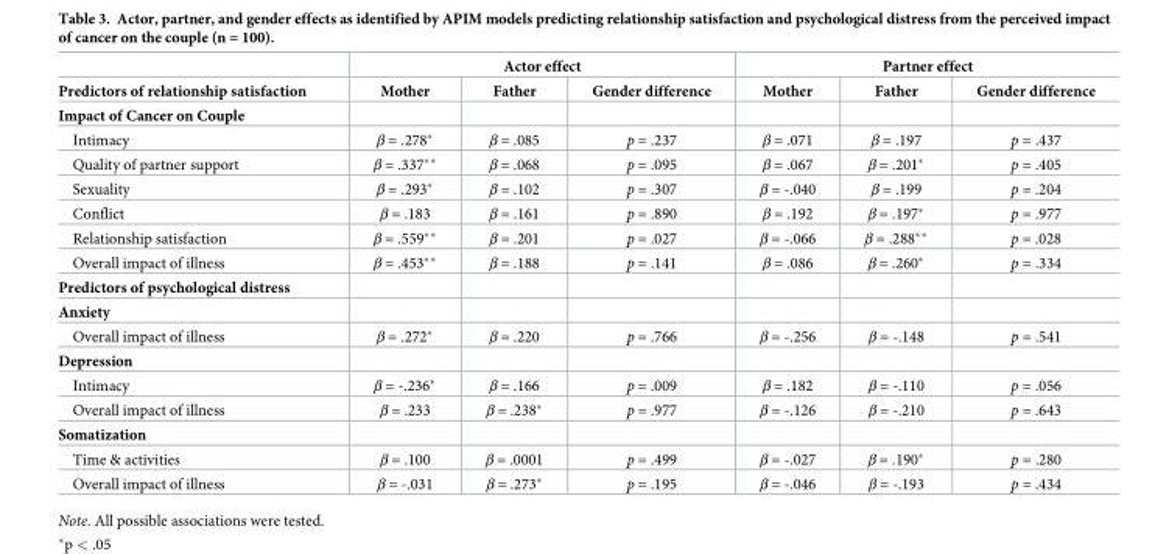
<table><thead><tr><td rowspan="2">Predictors of relationship satisfaction</td><td colspan="3">Actor effect</td><td colspan="3">Partner effect</td></tr><tr><td>Mother</td><td>Father</td><td>Gender difference</td><td>Mother</td><td>Father</td><td>Gender difference</td></tr></thead><tbody><tr><td colspan="7">Impact of Cancer on Couple</td></tr><tr><td>Intimacy</td><td>β = .278*</td><td>β = .085</td><td>p = .237</td><td>β = .071</td><td>β = .197</td><td>p = .437</td></tr><tr><td>Quality of partner support</td><td>β = .337**</td><td>β = .068</td><td>p = .095</td><td>β = .067</td><td>β = .201*</td><td>p = .405</td></tr><tr><td>Sexuality</td><td>β = .293*</td><td>β = .102</td><td>p = .307</td><td>β = -.040</td><td>β = .199</td><td>p = .204</td></tr><tr><td>Conflict</td><td>β = .183</td><td>β = .161</td><td>p = .890</td><td>β = .192</td><td>β = .197*</td><td>p = .977</td></tr><tr><td>Relationship satisfaction</td><td>β = .559**</td><td>β = .201</td><td>p = .027</td><td>β = -.066</td><td>β = .288**</td><td>p = .028</td></tr><tr><td>Overall impact of illness</td><td>β = .453**</td><td>β = .188</td><td>p = .141</td><td>β = .086</td><td>β = .260*</td><td>p = .334</td></tr><tr><td colspan="7">Predictors of psychological distress</td></tr><tr><td colspan="7">Anxiety</td></tr><tr><td>Overall impact of illness</td><td>β = .272*</td><td>β = .220</td><td>p = .766</td><td>β = -.256</td><td>β = -.148</td><td>p = .541</td></tr><tr><td colspan="7">Depression</td></tr><tr><td>Intimacy</td><td>β = -.236*</td><td>β = .166</td><td>p = .009</td><td>β = .182</td><td>β = -.110</td><td>p = .056</td></tr><tr><td>Overall impact of illness</td><td>β = .233</td><td>β = .238*</td><td>p = .977</td><td>β = -.126</td><td>β = -.210</td><td>p = .643</td></tr><tr><td colspan="7">Somatization</td></tr><tr><td>Time &amp; activities</td><td>β = .100</td><td>β = .0001</td><td>p = .499</td><td>β = -.027</td><td>β = .190*</td><td>p = .280</td></tr><tr><td>Overall impact of illness</td><td>β = -.031</td><td>β = .273*</td><td>p = .195</td><td>β = -.046</td><td>β = -.193</td><td>p = .434</td></tr></tbody></table>